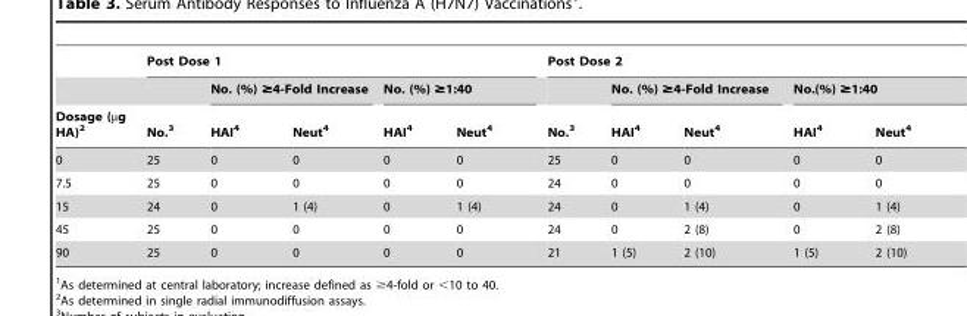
<table><thead><tr><td rowspan="3">Dosage (µg HA)<sup>2</sup></td><td colspan="5">Post Dose 1</td><td colspan="5">Post Dose 2</td></tr><tr><td rowspan="2">No.<sup>3</sup></td><td colspan="2">No. (%) ≥4-Fold Increase</td><td colspan="2">No. (%) ≥1:40</td><td rowspan="2">No.<sup>3</sup></td><td colspan="2">No. (%) ≥4-Fold Increase</td><td colspan="2">No.(%) ≥1:40</td></tr><tr><td>HAI<sup>4</sup></td><td>Neut<sup>4</sup></td><td>HAI<sup>4</sup></td><td>Neut<sup>4</sup></td><td>HAI<sup>4</sup></td><td>Neut<sup>4</sup></td><td>HAI<sup>4</sup></td><td>Neut<sup>4</sup></td></tr></thead><tbody><tr><td>0</td><td>25</td><td>0</td><td>0</td><td>0</td><td>0</td><td>25</td><td>0</td><td>0</td><td>0</td><td>0</td></tr><tr><td>7.5</td><td>25</td><td>0</td><td>0</td><td>0</td><td>0</td><td>24</td><td>0</td><td>0</td><td>0</td><td>0</td></tr><tr><td>15</td><td>24</td><td>0</td><td>1 (4)</td><td>0</td><td>1 (4)</td><td>24</td><td>0</td><td>1 (4)</td><td>0</td><td>1 (4)</td></tr><tr><td>45</td><td>25</td><td>0</td><td>0</td><td>0</td><td>0</td><td>24</td><td>0</td><td>2 (8)</td><td>0</td><td>2 (8)</td></tr><tr><td>90</td><td>25</td><td>0</td><td>0</td><td>0</td><td>0</td><td>21</td><td>1 (5)</td><td>2 (10)</td><td>1 (5)</td><td>2 (10)</td></tr></tbody></table>